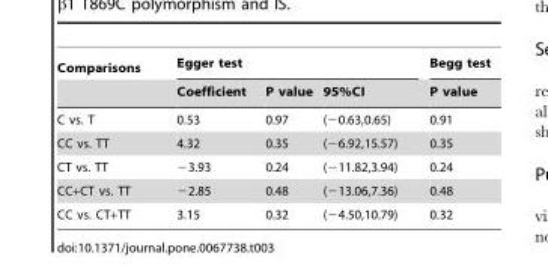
<table><thead><tr><td rowspan="2">Comparisons</td><td colspan="3">Egger test</td><td rowspan="2">Begg test P value</td></tr><tr><td>Coefficient</td><td>P value</td><td>95%CI</td></tr></thead><tbody><tr><td>C vs. T</td><td>0.53</td><td>0.97</td><td>(−0.63,0.65)</td><td>0.91</td></tr><tr><td>CC vs. TT</td><td>4.32</td><td>0.35</td><td>(−6.92,15.57)</td><td>0.35</td></tr><tr><td>CT vs. TT</td><td>−3.93</td><td>0.24</td><td>(−11.82,3.94)</td><td>0.24</td></tr><tr><td>CC+CT vs. TT</td><td>−2.85</td><td>0.48</td><td>(−13.06,7.36)</td><td>0.48</td></tr><tr><td>CC vs. CT+TT</td><td>3.15</td><td>0.32</td><td>(−4.50,10.79)</td><td>0.32</td></tr></tbody></table>